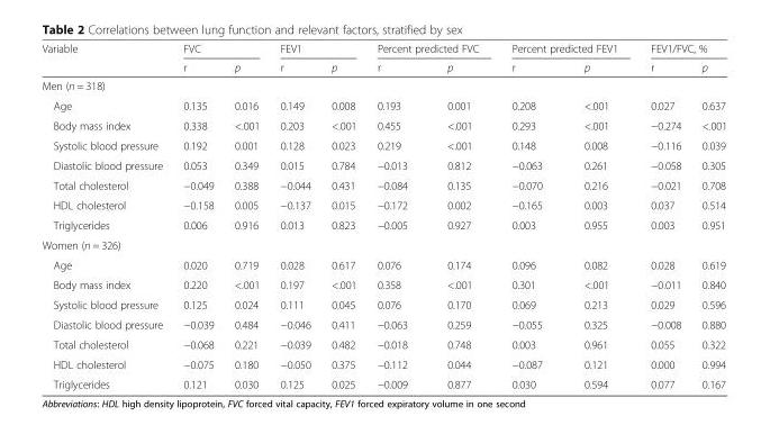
<table><thead><tr><td rowspan="2">Variable</td><td colspan="2">FVC</td><td colspan="2">FEV1</td><td colspan="2">Percent predicted FVC</td><td colspan="2">Percent predicted FEV1</td><td colspan="2">FEV1/FVC, %</td></tr><tr><td>r</td><td>p</td><td>r</td><td>p</td><td>r</td><td>p</td><td>r</td><td>p</td><td>r</td><td>p</td></tr></thead><tbody><tr><td colspan="11">Men (n = 318)</td></tr><tr><td>Age</td><td>0.135</td><td>0.016</td><td>0.149</td><td>0.008</td><td>0.193</td><td>0.001</td><td>0.208</td><td>&lt;.001</td><td>0.027</td><td>0.637</td></tr><tr><td>Body mass index</td><td>0.338</td><td>&lt;.001</td><td>0.203</td><td>&lt;.001</td><td>0.455</td><td>&lt;.001</td><td>0.293</td><td>&lt;.001</td><td>−0.274</td><td>&lt;.001</td></tr><tr><td>Systolic blood pressure</td><td>0.192</td><td>0.001</td><td>0.128</td><td>0.023</td><td>0.219</td><td>&lt;.001</td><td>0.148</td><td>0.008</td><td>−0.116</td><td>0.039</td></tr><tr><td>Diastolic blood pressure</td><td>0.053</td><td>0.349</td><td>0.015</td><td>0.784</td><td>−0.013</td><td>0.812</td><td>−0.063</td><td>0.261</td><td>−0.058</td><td>0.305</td></tr><tr><td>Total cholesterol</td><td>−0.049</td><td>0.388</td><td>−0.044</td><td>0.431</td><td>−0.084</td><td>0.135</td><td>−0.070</td><td>0.216</td><td>−0.021</td><td>0.708</td></tr><tr><td>HDL cholesterol</td><td>−0.158</td><td>0.005</td><td>−0.137</td><td>0.015</td><td>−0.172</td><td>0.002</td><td>−0.165</td><td>0.003</td><td>0.037</td><td>0.514</td></tr><tr><td>Triglycerides</td><td>0.006</td><td>0.916</td><td>0.013</td><td>0.823</td><td>−0.005</td><td>0.927</td><td>0.003</td><td>0.955</td><td>0.003</td><td>0.951</td></tr><tr><td colspan="11">Women (n = 326)</td></tr><tr><td>Age</td><td>0.020</td><td>0.719</td><td>0.028</td><td>0.617</td><td>0.076</td><td>0.174</td><td>0.096</td><td>0.082</td><td>0.028</td><td>0.619</td></tr><tr><td>Body mass index</td><td>0.220</td><td>&lt;.001</td><td>0.197</td><td>&lt;.001</td><td>0.358</td><td>&lt;.001</td><td>0.301</td><td>&lt;.001</td><td>−0.011</td><td>0.840</td></tr><tr><td>Systolic blood pressure</td><td>0.125</td><td>0.024</td><td>0.111</td><td>0.045</td><td>0.076</td><td>0.170</td><td>0.069</td><td>0.213</td><td>0.029</td><td>0.596</td></tr><tr><td>Diastolic blood pressure</td><td>−0.039</td><td>0.484</td><td>−0.046</td><td>0.411</td><td>−0.063</td><td>0.259</td><td>−0.055</td><td>0.325</td><td>−0.008</td><td>0.880</td></tr><tr><td>Total cholesterol</td><td>−0.068</td><td>0.221</td><td>−0.039</td><td>0.482</td><td>−0.018</td><td>0.748</td><td>0.003</td><td>0.961</td><td>0.055</td><td>0.322</td></tr><tr><td>HDL cholesterol</td><td>−0.075</td><td>0.180</td><td>−0.050</td><td>0.375</td><td>−0.112</td><td>0.044</td><td>−0.087</td><td>0.121</td><td>0.000</td><td>0.994</td></tr><tr><td>Triglycerides</td><td>0.121</td><td>0.030</td><td>0.125</td><td>0.025</td><td>−0.009</td><td>0.877</td><td>0.030</td><td>0.594</td><td>0.077</td><td>0.167</td></tr></tbody></table>